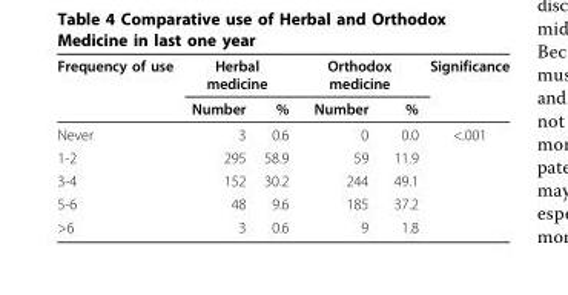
<table><thead><tr><td rowspan="2">Frequency of use</td><td colspan="2">Herbal medicine</td><td colspan="2">Orthodox medicine</td><td rowspan="2">Significance</td></tr><tr><td>Number</td><td>%</td><td>Number</td><td>%</td></tr></thead><tbody><tr><td>Never</td><td>3</td><td>0.6</td><td>0</td><td>0.0</td><td>&lt;.001</td></tr><tr><td>1-2</td><td>295</td><td>58.9</td><td>59</td><td>11.9</td><td></td></tr><tr><td>3-4</td><td>152</td><td>30.2</td><td>244</td><td>49.1</td><td></td></tr><tr><td>5-6</td><td>48</td><td>9.6</td><td>185</td><td>37.2</td><td></td></tr><tr><td>&gt;6</td><td>3</td><td>0.6</td><td>9</td><td>1.8</td><td></td></tr></tbody></table>